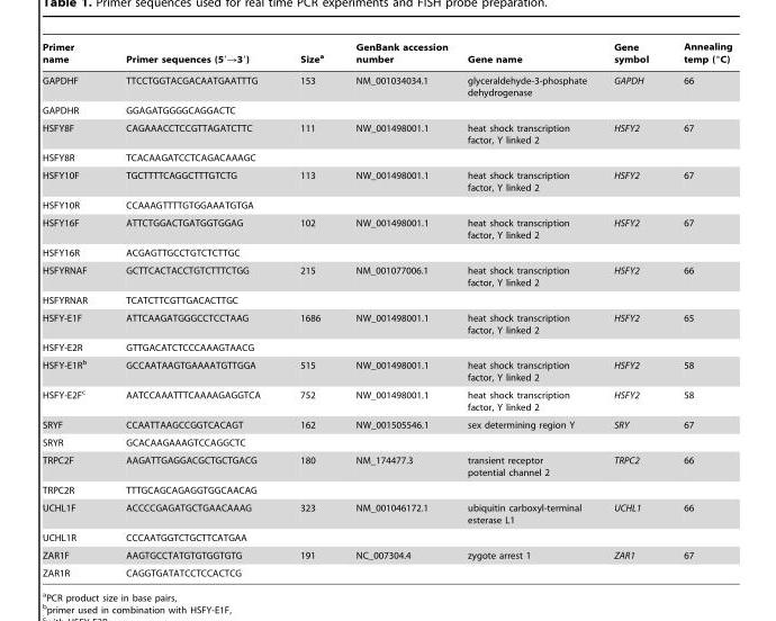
<table><thead><tr><td>Primer name</td><td>Primer sequences (5′→3′)</td><td>Size<sup>a</sup></td><td>GenBank accession number</td><td>Gene name</td><td>Gene symbol</td><td>Annealing temp (°C)</td></tr></thead><tbody><tr><td>GAPDHF</td><td>TTCCTGGTACGACAATGAATTTG</td><td>153</td><td>NM_001034034.1</td><td>glyceraldehyde-3-phosphate dehydrogenase</td><td>GAPDH</td><td>66</td></tr><tr><td>GAPDHR</td><td>GGAGATGGGGCAGGACTC</td><td></td><td></td><td></td><td></td><td></td></tr><tr><td>HSFY8F</td><td>CAGAAACCTCCGTTAGATCTTC</td><td>111</td><td>NW_001498001.1</td><td>heat shock transcription factor, Y linked 2</td><td>HSFY2</td><td>67</td></tr><tr><td>HSFY8R</td><td>TCACAAGATCCTCAGACAAAGC</td><td></td><td></td><td></td><td></td><td></td></tr><tr><td>HSFY10F</td><td>TGCTTTTCAGGCTTTGTCTG</td><td>113</td><td>NW_001498001.1</td><td>heat shock transcription factor, Y linked 2</td><td>HSFY2</td><td>67</td></tr><tr><td>HSFY10R</td><td>CCAAAGTTTTGTGGAAATGTGA</td><td></td><td></td><td></td><td></td><td></td></tr><tr><td>HSFY16F</td><td>ATTCTGGACTGATGGTGGAG</td><td>102</td><td>NW_001498001.1</td><td>heat shock transcription factor, Y linked 2</td><td>HSFY2</td><td>67</td></tr><tr><td>HSFY16R</td><td>ACGAGTTGCCTGTCTCTTGC</td><td></td><td></td><td></td><td></td><td></td></tr><tr><td>HSFYRNAF</td><td>GCTTCACTACCTGTCTTTCTGG</td><td>215</td><td>NM_001077006.1</td><td>heat shock transcription factor, Y linked 2</td><td>HSFY2</td><td>66</td></tr><tr><td>HSFYRNAR</td><td>TCATCTTCGTTGACACTTGC</td><td></td><td></td><td></td><td></td><td></td></tr><tr><td>HSFY-E1F</td><td>ATTCAAGATGGGCCTCCTAAG</td><td>1686</td><td>NW_001498001.1</td><td>heat shock transcription factor, Y linked 2</td><td>HSFY2</td><td>65</td></tr><tr><td>HSFY-E2R</td><td>GTTGACATCTCCCAAAGTAACG</td><td></td><td></td><td></td><td></td><td></td></tr><tr><td>HSFY-E1R<sup>b</sup></td><td>GCCAATAAGTGAAAATGTTGGA</td><td>515</td><td>NW_001498001.1</td><td>heat shock transcription factor, Y linked 2</td><td>HSFY2</td><td>58</td></tr><tr><td>HSFY-E2F<sup>c</sup></td><td>AATCCAAATTTCAAAAGAGGTCA</td><td>752</td><td>NW_001498001.1</td><td>heat shock transcription factor, Y linked 2</td><td>HSFY2</td><td>58</td></tr><tr><td>SRYF</td><td>CCAATTAAGCCGGTCACAGT</td><td>162</td><td>NW_001505546.1</td><td>sex determining region Y</td><td>SRY</td><td>67</td></tr><tr><td>SRYR</td><td>GCACAAGAAAGTCCAGGCTC</td><td></td><td></td><td></td><td></td><td></td></tr><tr><td>TRPC2F</td><td>AAGATTGAGGACGCTGCTGACG</td><td>180</td><td>NM_174477.3</td><td>transient receptor potential channel 2</td><td>TRPC2</td><td>66</td></tr><tr><td>TRPC2R</td><td>TTTGCAGCAGAGGTGGCAACAG</td><td></td><td></td><td></td><td></td><td></td></tr><tr><td>UCHL1F</td><td>ACCCCGAGATGCTGAACAAAG</td><td>323</td><td>NM_001046172.1</td><td>ubiquitin carboxyl-terminal esterase L1</td><td>UCHL1</td><td>66</td></tr><tr><td>UCHL1R</td><td>CCCAATGGTCTGCTTCATGAA</td><td></td><td></td><td></td><td></td><td></td></tr><tr><td>ZAR1F</td><td>AAGTGCCTATGTGTGGTGTG</td><td>191</td><td>NC_007304.4</td><td>zygote arrest 1</td><td>ZAR1</td><td>67</td></tr><tr><td>ZAR1R</td><td>CAGGTGATATCCTCCACTCG</td><td></td><td></td><td></td><td></td><td></td></tr></tbody></table>